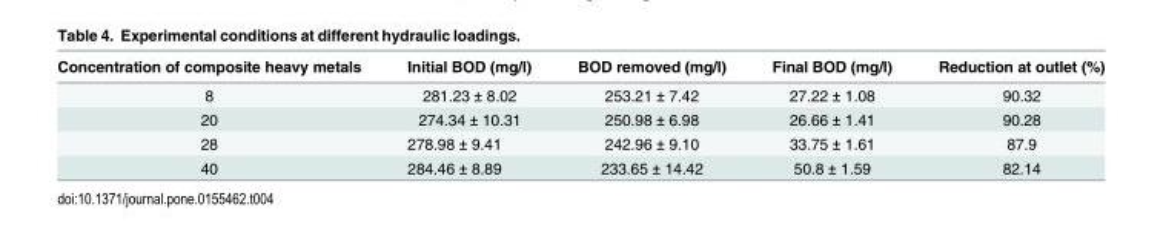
<table><thead><tr><td>Concentration of composite heavy metals</td><td>Initial BOD (mg/l)</td><td>BOD removed (mg/l)</td><td>Final BOD (mg/l)</td><td>Reduction at outlet (%)</td></tr></thead><tbody><tr><td>8</td><td>281.23 ± 8.02</td><td>253.21 ± 7.42</td><td>27.22 ± 1.08</td><td>90.32</td></tr><tr><td>20</td><td>274.34 ± 10.31</td><td>250.98 ± 6.98</td><td>26.66 ± 1.41</td><td>90.28</td></tr><tr><td>28</td><td>278.98 ± 9.41</td><td>242.96 ± 9.10</td><td>33.75 ± 1.61</td><td>87.9</td></tr><tr><td>40</td><td>284.46 ± 8.89</td><td>233.65 ± 14.42</td><td>50.8 ± 1.59</td><td>82.14</td></tr></tbody></table>